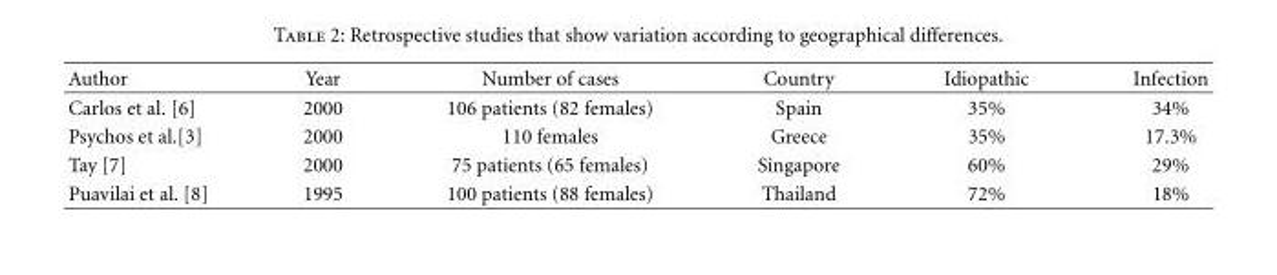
<table><thead><tr><td>Author</td><td>Year</td><td>Number of cases</td><td>Country</td><td>Idiopathic</td><td>Infection</td></tr></thead><tbody><tr><td>Carlos et al. [6]</td><td>2000</td><td>106 patients (82 females)</td><td>Spain</td><td>35%</td><td>34%</td></tr><tr><td>Psychos et al.[3]</td><td>2000</td><td>110 females</td><td>Greece</td><td>35%</td><td>17.3%</td></tr><tr><td>Tay [7]</td><td>2000</td><td>75 patients (65 females)</td><td>Singapore</td><td>60%</td><td>29%</td></tr><tr><td>Puavilai et al. [8]</td><td>1995</td><td>100 patients (88 females)</td><td>Thailand</td><td>72%</td><td>18%</td></tr></tbody></table>